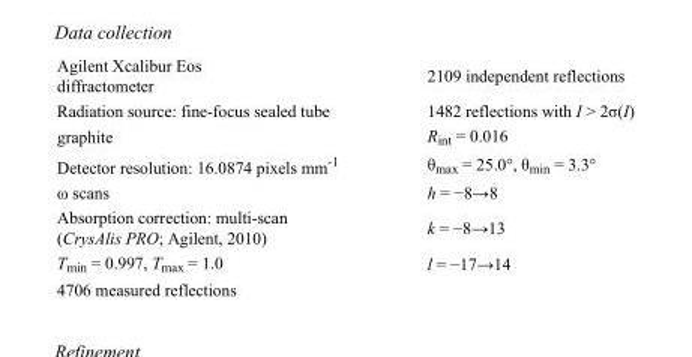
<table><tbody><tr><td>Agilent Xcalibur Eos diffractometer</td><td>2109 independent reflections</td></tr><tr><td>Radiation source: fine-focus sealed tube</td><td>1482 reflections with I &gt; 2σ(I)</td></tr><tr><td>graphite</td><td>R<sub>int</sub> = 0.016</td></tr><tr><td>Detector resolution: 16.0874 pixels mm<sup>-1</sup></td><td>θ<sub>max</sub> = 25.0°, θ<sub>min</sub> = 3.3°</td></tr><tr><td>ω scans</td><td>h = −8→8</td></tr><tr><td>Absorption correction: multi-scan (CrysAlis PRO; Agilent, 2010)</td><td>k = −8→13</td></tr><tr><td>T<sub>min</sub> = 0.997, T<sub>max</sub> = 1.0</td><td>l = −17→14</td></tr><tr><td>4706 measured reflections</td><td></td></tr></tbody></table>